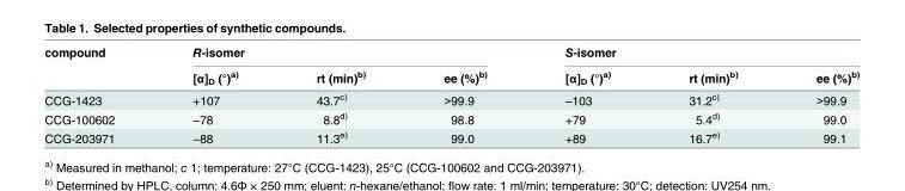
<table><thead><tr><td rowspan="2">compound</td><td colspan="3">R-isomer</td><td colspan="3">S-isomer</td></tr><tr><td>[α]<sub>D</sub> (°)<sup>a)</sup></td><td>rt (min)<sup>b)</sup></td><td>ee (%)<sup>b)</sup></td><td>[α]<sub>D</sub> (°)<sup>a)</sup></td><td>rt (min)<sup>b)</sup></td><td>ee (%)<sup>b)</sup></td></tr></thead><tbody><tr><td>CCG-1423</td><td>+107</td><td>43.7<sup>c)</sup></td><td>&gt;99.9</td><td>–103</td><td>31.2<sup>c)</sup></td><td>&gt;99.9</td></tr><tr><td>CCG-100602</td><td>–78</td><td>8.8<sup>d)</sup></td><td>98.8</td><td>+79</td><td>5.4<sup>d)</sup></td><td>99.0</td></tr><tr><td>CCG-203971</td><td>–88</td><td>11.3<sup>e)</sup></td><td>99.0</td><td>+89</td><td>16.7<sup>e)</sup></td><td>99.1</td></tr></tbody></table>